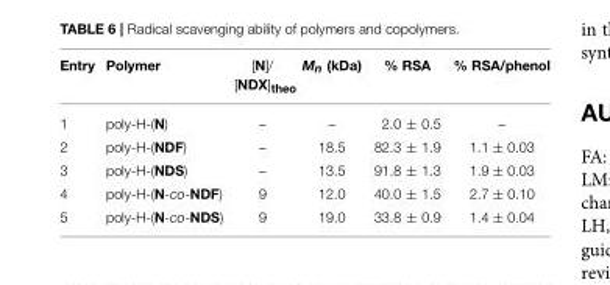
<table><thead><tr><td>Entry</td><td>Polymer</td><td>[N]/ [NDX]<sub>theo</sub></td><td>Mn (kDa)</td><td>% RSA</td><td>% RSA/phenol</td></tr></thead><tbody><tr><td>1</td><td>poly-H-(N)</td><td>–</td><td>–</td><td>2.0 ± 0.5</td><td>–</td></tr><tr><td>2</td><td>poly-H-(NDF)</td><td>–</td><td>18.5</td><td>82.3 ± 1.9</td><td>1.1 ± 0.03</td></tr><tr><td>3</td><td>poly-H-(NDS)</td><td>–</td><td>13.5</td><td>91.8 ± 1.3</td><td>1.9 ± 0.03</td></tr><tr><td>4</td><td>poly-H-(N-co-NDF)</td><td>9</td><td>12.0</td><td>40.0 ± 1.5</td><td>2.7 ± 0.10</td></tr><tr><td>5</td><td>poly-H-(N-co-NDS)</td><td>9</td><td>19.0</td><td>33.8 ± 0.9</td><td>1.4 ± 0.04</td></tr></tbody></table>